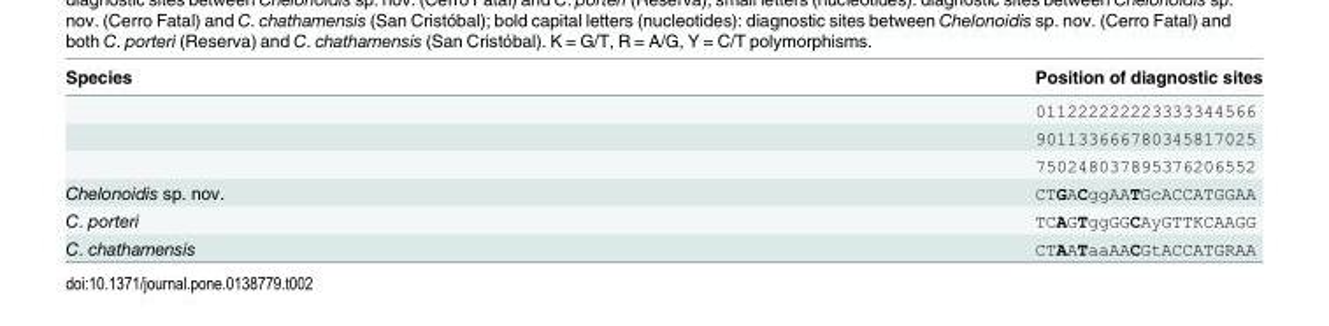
<table><thead><tr><td>Species</td><td>Position of diagnostic sites</td></tr></thead><tbody><tr><td></td><td>011222222223333344566</td></tr><tr><td></td><td>901133666780345817025</td></tr><tr><td></td><td>750248037895376206552</td></tr><tr><td>Chelonoidis sp. nov.</td><td>CTGACggAATGcACCATGGAA</td></tr><tr><td>C. porteri</td><td>TCAGTggGGCAyGTTKCAAGG</td></tr><tr><td>C. chathamensis</td><td>CTAATaaAACGtACCATGRAA</td></tr></tbody></table>